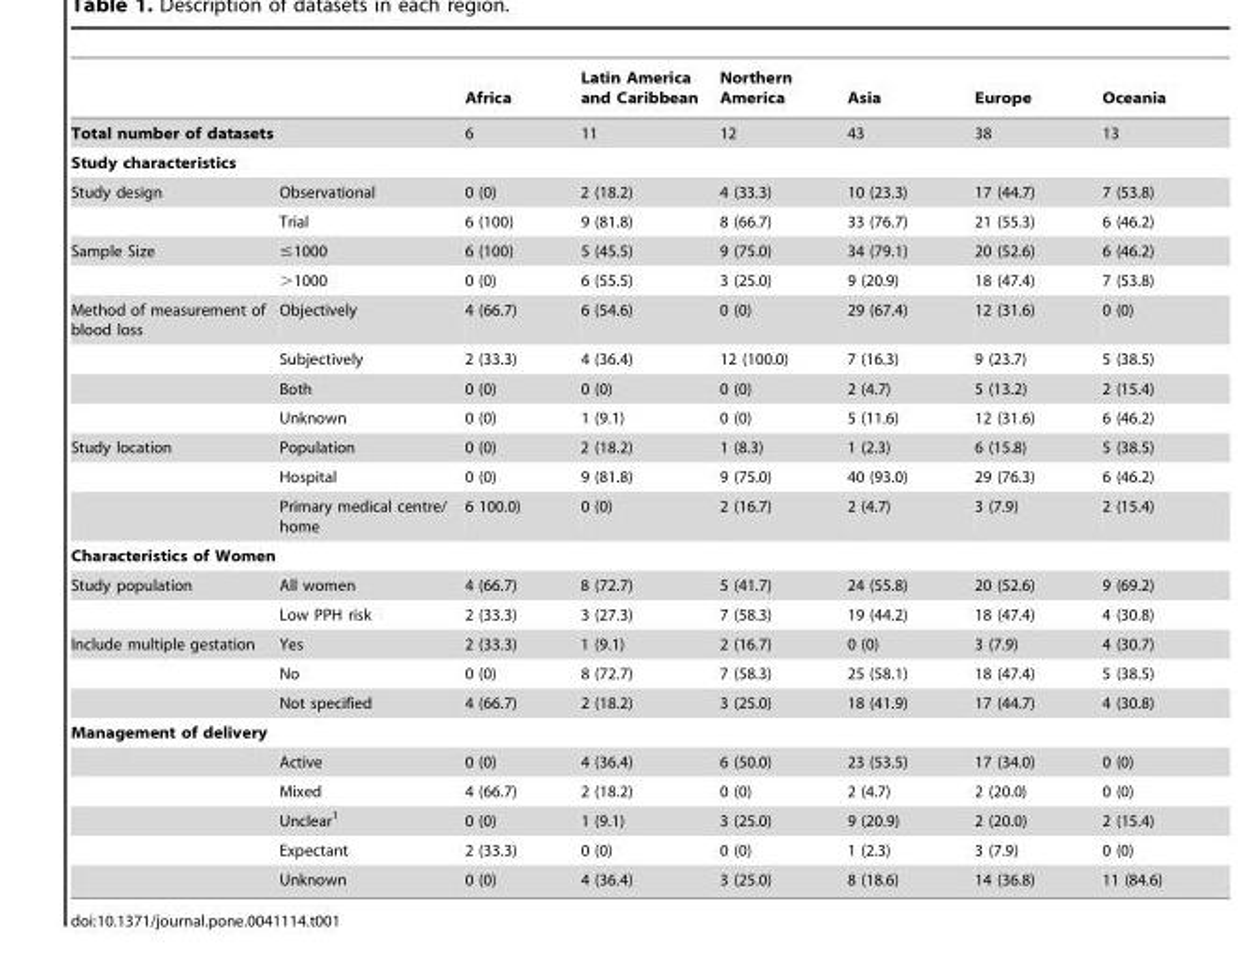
<table><thead><tr><td></td><td></td><td>Africa</td><td>Latin America and Caribbean</td><td>Northern America</td><td>Asia</td><td>Europe</td><td>Oceania</td></tr></thead><tbody><tr><td>Total number of datasets</td><td></td><td>6</td><td>11</td><td>12</td><td>43</td><td>38</td><td>13</td></tr><tr><td colspan="8">Study characteristics</td></tr><tr><td rowspan="2">Study design</td><td>Observational</td><td>0 (0)</td><td>2 (18.2)</td><td>4 (33.3)</td><td>10 (23.3)</td><td>17 (44.7)</td><td>7 (53.8)</td></tr><tr><td>Trial</td><td>6 (100)</td><td>9 (81.8)</td><td>8 (66.7)</td><td>33 (76.7)</td><td>21 (55.3)</td><td>6 (46.2)</td></tr><tr><td rowspan="2">Sample Size</td><td>≤1000</td><td>6 (100)</td><td>5 (45.5)</td><td>9 (75.0)</td><td>34 (79.1)</td><td>20 (52.6)</td><td>6 (46.2)</td></tr><tr><td>&gt;1000</td><td>0 (0)</td><td>6 (55.5)</td><td>3 (25.0)</td><td>9 (20.9)</td><td>18 (47.4)</td><td>7 (53.8)</td></tr><tr><td rowspan="4">Method of measurement of blood loss</td><td>Objectively</td><td>4 (66.7)</td><td>6 (54.6)</td><td>0 (0)</td><td>29 (67.4)</td><td>12 (31.6)</td><td>0 (0)</td></tr><tr><td>Subjectively</td><td>2 (33.3)</td><td>4 (36.4)</td><td>12 (100.0)</td><td>7 (16.3)</td><td>9 (23.7)</td><td>5 (38.5)</td></tr><tr><td>Both</td><td>0 (0)</td><td>0 (0)</td><td>0 (0)</td><td>2 (4.7)</td><td>5 (13.2)</td><td>2 (15.4)</td></tr><tr><td>Unknown</td><td>0 (0)</td><td>1 (9.1)</td><td>0 (0)</td><td>5 (11.6)</td><td>12 (31.6)</td><td>6 (46.2)</td></tr><tr><td rowspan="3">Study location</td><td>Population</td><td>0 (0)</td><td>2 (18.2)</td><td>1 (8.3)</td><td>1 (2.3)</td><td>6 (15.8)</td><td>5 (38.5)</td></tr><tr><td>Hospital</td><td>0 (0)</td><td>9 (81.8)</td><td>9 (75.0)</td><td>40 (93.0)</td><td>29 (76.3)</td><td>6 (46.2)</td></tr><tr><td>Primary medical centre/ home</td><td>6 100.0)</td><td>0 (0)</td><td>2 (16.7)</td><td>2 (4.7)</td><td>3 (7.9)</td><td>2 (15.4)</td></tr><tr><td colspan="8">Characteristics of Women</td></tr><tr><td rowspan="2">Study population</td><td>All women</td><td>4 (66.7)</td><td>8 (72.7)</td><td>5 (41.7)</td><td>24 (55.8)</td><td>20 (52.6)</td><td>9 (69.2)</td></tr><tr><td>Low PPH risk</td><td>2 (33.3)</td><td>3 (27.3)</td><td>7 (58.3)</td><td>19 (44.2)</td><td>18 (47.4)</td><td>4 (30.8)</td></tr><tr><td rowspan="3">Include multiple gestation</td><td>Yes</td><td>2 (33.3)</td><td>1 (9.1)</td><td>2 (16.7)</td><td>0 (0)</td><td>3 (7.9)</td><td>4 (30.7)</td></tr><tr><td>No</td><td>0 (0)</td><td>8 (72.7)</td><td>7 (58.3)</td><td>25 (58.1)</td><td>18 (47.4)</td><td>5 (38.5)</td></tr><tr><td>Not specified</td><td>4 (66.7)</td><td>2 (18.2)</td><td>3 (25.0)</td><td>18 (41.9)</td><td>17 (44.7)</td><td>4 (30.8)</td></tr><tr><td colspan="8">Management of delivery</td></tr><tr><td></td><td>Active</td><td>0 (0)</td><td>4 (36.4)</td><td>6 (50.0)</td><td>23 (53.5)</td><td>17 (34.0)</td><td>0 (0)</td></tr><tr><td></td><td>Mixed</td><td>4 (66.7)</td><td>2 (18.2)</td><td>0 (0)</td><td>2 (4.7)</td><td>2 (20.0)</td><td>0 (0)</td></tr><tr><td></td><td>Unclear<sup>1</sup></td><td>0 (0)</td><td>1 (9.1)</td><td>3 (25.0)</td><td>9 (20.9)</td><td>2 (20.0)</td><td>2 (15.4)</td></tr><tr><td></td><td>Expectant</td><td>2 (33.3)</td><td>0 (0)</td><td>0 (0)</td><td>1 (2.3)</td><td>3 (7.9)</td><td>0 (0)</td></tr><tr><td></td><td>Unknown</td><td>0 (0)</td><td>4 (36.4)</td><td>3 (25.0)</td><td>8 (18.6)</td><td>14 (36.8)</td><td>11 (84.6)</td></tr></tbody></table>